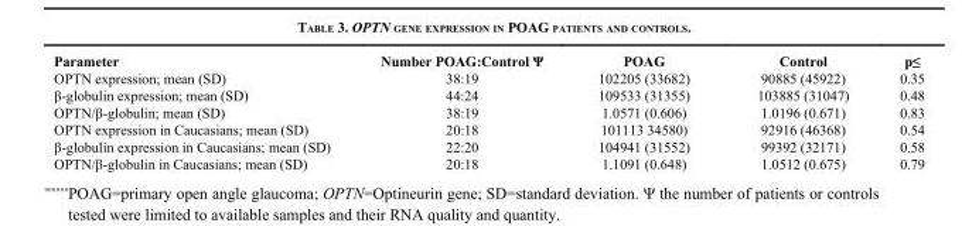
<table><thead><tr><td>Parameter</td><td>Number POAG:Control Ψ</td><td>POAG</td><td>Control</td><td>p≤</td></tr></thead><tbody><tr><td>OPTN expression; mean (SD)</td><td>38:19</td><td>102205 (33682)</td><td>90885 (45922)</td><td>0.35</td></tr><tr><td>β-globulin expression; mean (SD)</td><td>44:24</td><td>109533 (31355)</td><td>103885 (31047)</td><td>0.48</td></tr><tr><td>OPTN/β-globulin; mean (SD)</td><td>38:19</td><td>1.0571 (0.606)</td><td>1.0196 (0.671)</td><td>0.83</td></tr><tr><td>OPTN expression in Caucasians; mean (SD)</td><td>20:18</td><td>101113 34580)</td><td>92916 (46368)</td><td>0.54</td></tr><tr><td>β-globulin expression in Caucasians; mean (SD)</td><td>22:20</td><td>104941 (31552)</td><td>99392 (32171)</td><td>0.58</td></tr><tr><td>OPTN/β-globulin in Caucasians; mean (SD)</td><td>20:18</td><td>1.1091 (0.648)</td><td>1.0512 (0.675)</td><td>0.79</td></tr></tbody></table>